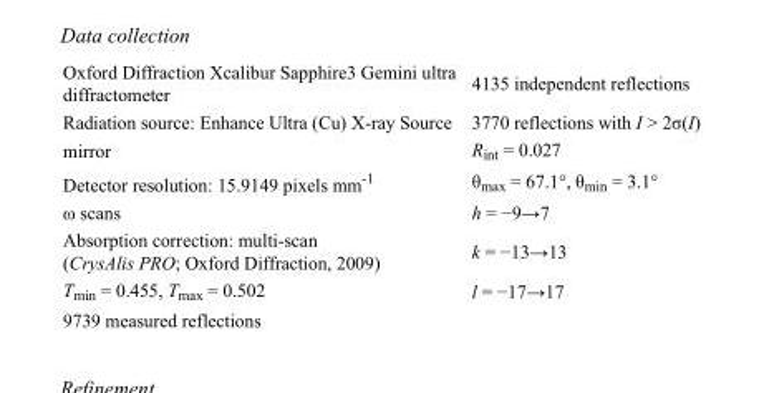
<table><tbody><tr><td>Oxford Diffraction Xcalibur Sapphire3 Gemini ultra diffractometer</td><td>4135 independent reflections</td></tr><tr><td>Radiation source: Enhance Ultra (Cu) X-ray Source</td><td>3770 reflections with I &gt; 2σ(I)</td></tr><tr><td>mirror</td><td>R<sub>int</sub> = 0.027</td></tr><tr><td>Detector resolution: 15.9149 pixels mm<sup>-1</sup></td><td>θ<sub>max</sub> = 67.1°, θ<sub>min</sub> = 3.1°</td></tr><tr><td>ω scans</td><td>h = −9→7</td></tr><tr><td>Absorption correction: multi-scan (CrysAlis PRO; Oxford Diffraction, 2009)</td><td>k = −13→13</td></tr><tr><td>T<sub>min</sub> = 0.455, T<sub>max</sub> = 0.502</td><td>l = −17→17</td></tr><tr><td>9739 measured reflections</td><td></td></tr></tbody></table>